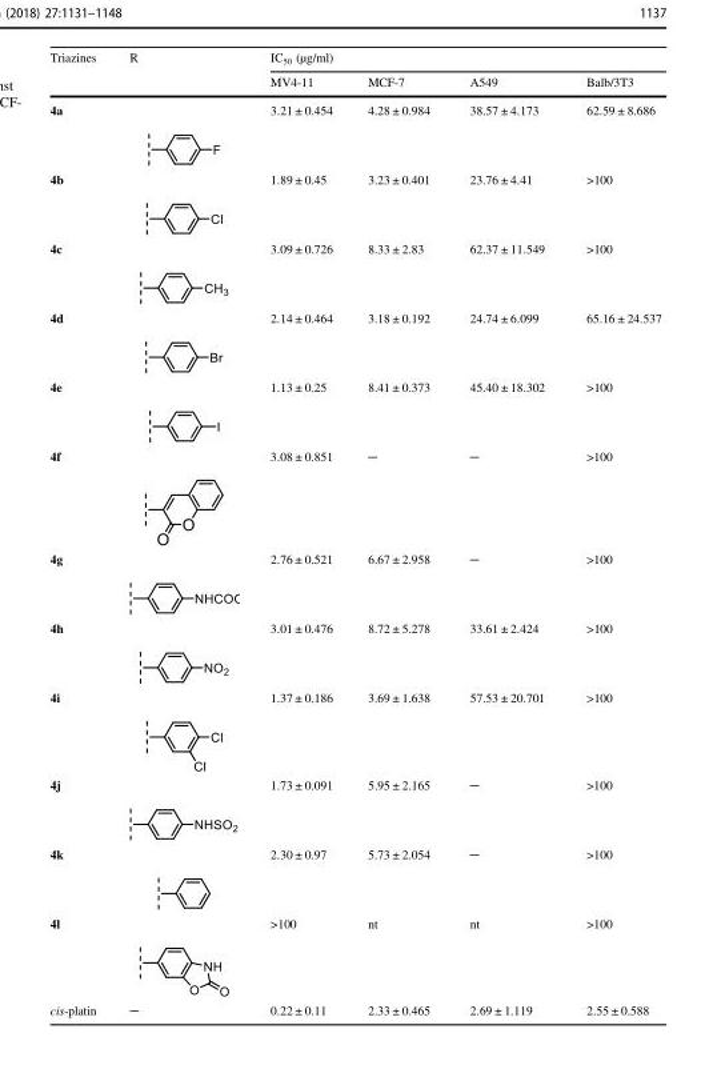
<table><thead><tr><td rowspan="2">Triazines</td><td rowspan="2">R</td><td colspan="4">IC<sub>50</sub> (µg/ml)</td></tr><tr><td>MV4-11</td><td>MCF-7</td><td>A549</td><td>Balb/3T3</td></tr></thead><tbody><tr><td>4a</td><td></td><td>3.21 ± 0.454</td><td>4.28 ± 0.984</td><td>38.57 ± 4.173</td><td>62.59 ± 8.686</td></tr><tr><td>4b</td><td></td><td>1.89 ± 0.45</td><td>3.23 ± 0.401</td><td>23.76 ± 4.41</td><td>&gt;100</td></tr><tr><td>4c</td><td></td><td>3.09 ± 0.726</td><td>8.33 ± 2.83</td><td>62.37 ± 11.549</td><td>&gt;100</td></tr><tr><td>4d</td><td></td><td>2.14 ± 0.464</td><td>3.18 ± 0.192</td><td>24.74 ± 6.099</td><td>65.16 ± 24.537</td></tr><tr><td>4e</td><td></td><td>1.13 ± 0.25</td><td>8.41 ± 0.373</td><td>45.40 ± 18.302</td><td>&gt;100</td></tr><tr><td>4f</td><td></td><td>3.08 ± 0.851</td><td>─</td><td>─</td><td>&gt;100</td></tr><tr><td>4g</td><td></td><td>2.76 ± 0.521</td><td>6.67 ± 2.958</td><td>─</td><td>&gt;100</td></tr><tr><td>4h</td><td></td><td>3.01 ± 0.476</td><td>8.72 ± 5.278</td><td>33.61 ± 2.424</td><td>&gt;100</td></tr><tr><td>4i</td><td></td><td>1.37 ± 0.186</td><td>3.69 ± 1.638</td><td>57.53 ± 20.701</td><td>&gt;100</td></tr><tr><td>4j</td><td></td><td>1.73 ± 0.091</td><td>5.95 ± 2.165</td><td>─</td><td>&gt;100</td></tr><tr><td>4k</td><td></td><td>2.30 ± 0.97</td><td>5.73 ± 2.054</td><td>─</td><td>&gt;100</td></tr><tr><td>4l</td><td></td><td>&gt;100</td><td>nt</td><td>nt</td><td>&gt;100</td></tr><tr><td>cis-platin</td><td>─</td><td>0.22 ± 0.11</td><td>2.33 ± 0.465</td><td>2.69 ± 1.119</td><td>2.55 ± 0.588</td></tr></tbody></table>